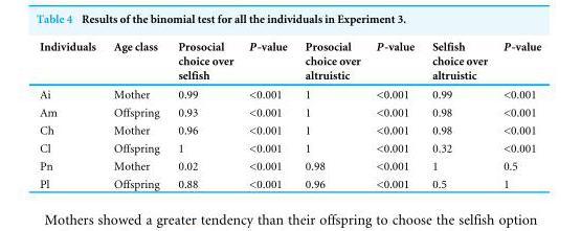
<table><thead><tr><td>Individuals</td><td>Age class</td><td>Prosocial choice over selfish</td><td>P-value</td><td>Prosocial choice over altruistic</td><td>P-value</td><td>Selfish choice over altruistic</td><td>P-value</td></tr></thead><tbody><tr><td>Ai</td><td>Mother</td><td>0.99</td><td>&lt;0.001</td><td>1</td><td>&lt;0.001</td><td>0.99</td><td>&lt;0.001</td></tr><tr><td>Am</td><td>Offspring</td><td>0.93</td><td>&lt;0.001</td><td>1</td><td>&lt;0.001</td><td>0.98</td><td>&lt;0.001</td></tr><tr><td>Ch</td><td>Mother</td><td>0.96</td><td>&lt;0.001</td><td>1</td><td>&lt;0.001</td><td>0.98</td><td>&lt;0.001</td></tr><tr><td>Cl</td><td>Offspring</td><td>1</td><td>&lt;0.001</td><td>1</td><td>&lt;0.001</td><td>0.32</td><td>&lt;0.001</td></tr><tr><td>Pn</td><td>Mother</td><td>0.02</td><td>&lt;0.001</td><td>0.98</td><td>&lt;0.001</td><td>1</td><td>0.5</td></tr><tr><td>Pl</td><td>Offspring</td><td>0.88</td><td>&lt;0.001</td><td>0.96</td><td>&lt;0.001</td><td>0.5</td><td>1</td></tr></tbody></table>